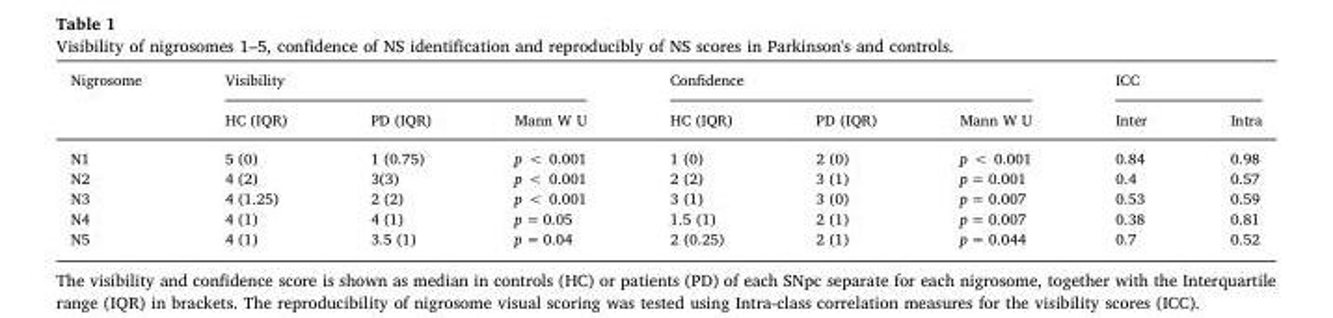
<table><thead><tr><td rowspan="2">Nigrosome</td><td colspan="3">Visibility</td><td colspan="3">Confidence</td><td colspan="2">ICC</td></tr><tr><td>HC (IQR)</td><td>PD (IQR)</td><td>Mann W U</td><td>HC (IQR)</td><td>PD (IQR)</td><td>Mann W U</td><td>Inter</td><td>Intra</td></tr></thead><tbody><tr><td>N1</td><td>5 (0)</td><td>1 (0.75)</td><td>p &lt; 0.001</td><td>1 (0)</td><td>2 (0)</td><td>p &lt; 0.001</td><td>0.84</td><td>0.98</td></tr><tr><td>N2</td><td>4 (2)</td><td>3(3)</td><td>p &lt; 0.001</td><td>2 (2)</td><td>3 (1)</td><td>p = 0.001</td><td>0.4</td><td>0.57</td></tr><tr><td>N3</td><td>4 (1.25)</td><td>2 (2)</td><td>p &lt; 0.001</td><td>3 (1)</td><td>3 (0)</td><td>p = 0.007</td><td>0.53</td><td>0.59</td></tr><tr><td>N4</td><td>4 (1)</td><td>4 (1)</td><td>p = 0.05</td><td>1.5 (1)</td><td>2 (1)</td><td>p = 0.007</td><td>0.38</td><td>0.81</td></tr><tr><td>N5</td><td>4 (1)</td><td>3.5 (1)</td><td>p = 0.04</td><td>2 (0.25)</td><td>2 (1)</td><td>p = 0.044</td><td>0.7</td><td>0.52</td></tr></tbody></table>